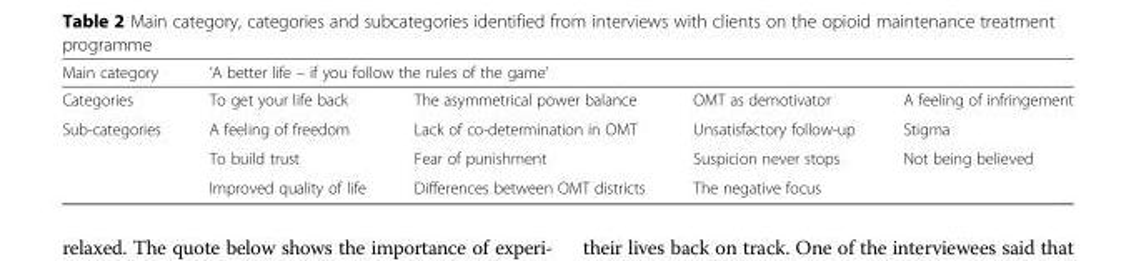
<table><thead><tr><td rowspan="2">Main category Categories</td><td colspan="4">‘A better life – if you follow the rules of the game’</td></tr><tr><td>To get your life back</td><td>The asymmetrical power balance</td><td>OMT as demotivator</td><td>A feeling of infringement</td></tr></thead><tbody><tr><td rowspan="3">Sub-categories</td><td>A feeling of freedom</td><td>Lack of co-determination in OMT</td><td>Unsatisfactory follow-up</td><td>Stigma</td></tr><tr><td>To build trust</td><td>Fear of punishment</td><td>Suspicion never stops</td><td>Not being believed</td></tr><tr><td>Improved quality of life</td><td>Differences between OMT districts</td><td>The negative focus</td><td></td></tr></tbody></table>